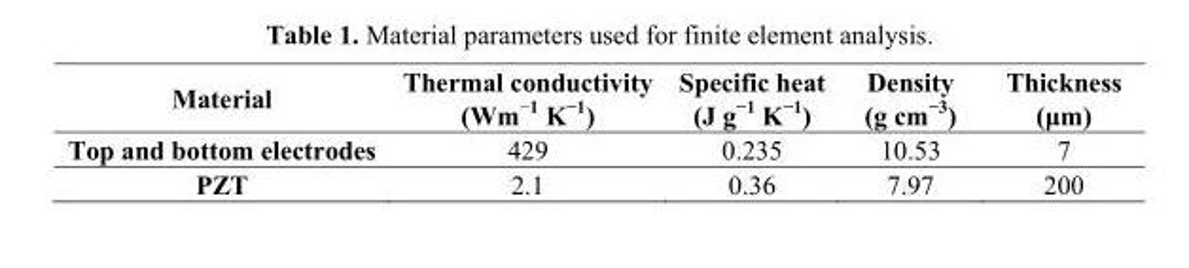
<table><thead><tr><td>Material</td><td>Thermal conductivity (Wm<sup>−1</sup> K<sup>−1</sup>)</td><td>Specific heat (J g<sup>−1</sup> K<sup>−1</sup>)</td><td>Density (g cm<sup>−3</sup>)</td><td>Thickness (μm)</td></tr></thead><tbody><tr><td>Top and bottom electrodes</td><td>429</td><td>0.235</td><td>10.53</td><td>7</td></tr><tr><td>PZT</td><td>2.1</td><td>0.36</td><td>7.97</td><td>200</td></tr></tbody></table>